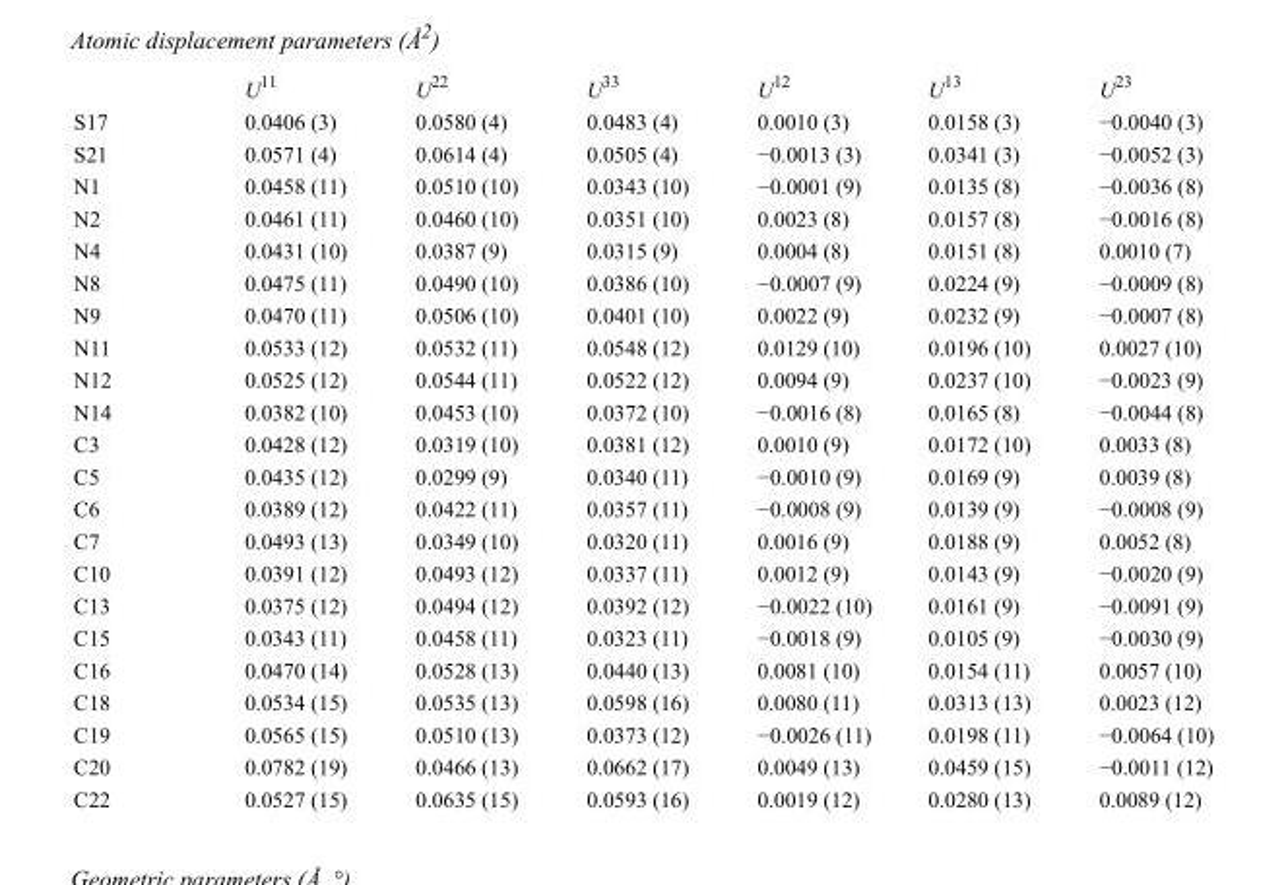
<table><thead><tr><td></td><td>U<sup>11</sup></td><td>U<sup>22</sup></td><td>U<sup>33</sup></td><td>U<sup>12</sup></td><td>U<sup>13</sup></td><td>U<sup>23</sup></td></tr></thead><tbody><tr><td>S17</td><td>0.0406 (3)</td><td>0.0580 (4)</td><td>0.0483 (4)</td><td>0.0010 (3)</td><td>0.0158 (3)</td><td>−0.0040 (3)</td></tr><tr><td>S21</td><td>0.0571 (4)</td><td>0.0614 (4)</td><td>0.0505 (4)</td><td>−0.0013 (3)</td><td>0.0341 (3)</td><td>−0.0052 (3)</td></tr><tr><td>N1</td><td>0.0458 (11)</td><td>0.0510 (10)</td><td>0.0343 (10)</td><td>−0.0001 (9)</td><td>0.0135 (8)</td><td>−0.0036 (8)</td></tr><tr><td>N2</td><td>0.0461 (11)</td><td>0.0460 (10)</td><td>0.0351 (10)</td><td>0.0023 (8)</td><td>0.0157 (8)</td><td>−0.0016 (8)</td></tr><tr><td>N4</td><td>0.0431 (10)</td><td>0.0387 (9)</td><td>0.0315 (9)</td><td>0.0004 (8)</td><td>0.0151 (8)</td><td>0.0010 (7)</td></tr><tr><td>N8</td><td>0.0475 (11)</td><td>0.0490 (10)</td><td>0.0386 (10)</td><td>−0.0007 (9)</td><td>0.0224 (9)</td><td>−0.0009 (8)</td></tr><tr><td>N9</td><td>0.0470 (11)</td><td>0.0506 (10)</td><td>0.0401 (10)</td><td>0.0022 (9)</td><td>0.0232 (9)</td><td>−0.0007 (8)</td></tr><tr><td>N11</td><td>0.0533 (12)</td><td>0.0532 (11)</td><td>0.0548 (12)</td><td>0.0129 (10)</td><td>0.0196 (10)</td><td>0.0027 (10)</td></tr><tr><td>N12</td><td>0.0525 (12)</td><td>0.0544 (11)</td><td>0.0522 (12)</td><td>0.0094 (9)</td><td>0.0237 (10)</td><td>−0.0023 (9)</td></tr><tr><td>N14</td><td>0.0382 (10)</td><td>0.0453 (10)</td><td>0.0372 (10)</td><td>−0.0016 (8)</td><td>0.0165 (8)</td><td>−0.0044 (8)</td></tr><tr><td>C3</td><td>0.0428 (12)</td><td>0.0319 (10)</td><td>0.0381 (12)</td><td>0.0010 (9)</td><td>0.0172 (10)</td><td>0.0033 (8)</td></tr><tr><td>C5</td><td>0.0435 (12)</td><td>0.0299 (9)</td><td>0.0340 (11)</td><td>−0.0010 (9)</td><td>0.0169 (9)</td><td>0.0039 (8)</td></tr><tr><td>C6</td><td>0.0389 (12)</td><td>0.0422 (11)</td><td>0.0357 (11)</td><td>−0.0008 (9)</td><td>0.0139 (9)</td><td>−0.0008 (9)</td></tr><tr><td>C7</td><td>0.0493 (13)</td><td>0.0349 (10)</td><td>0.0320 (11)</td><td>0.0016 (9)</td><td>0.0188 (9)</td><td>0.0052 (8)</td></tr><tr><td>C10</td><td>0.0391 (12)</td><td>0.0493 (12)</td><td>0.0337 (11)</td><td>0.0012 (9)</td><td>0.0143 (9)</td><td>−0.0020 (9)</td></tr><tr><td>C13</td><td>0.0375 (12)</td><td>0.0494 (12)</td><td>0.0392 (12)</td><td>−0.0022 (10)</td><td>0.0161 (9)</td><td>−0.0091 (9)</td></tr><tr><td>C15</td><td>0.0343 (11)</td><td>0.0458 (11)</td><td>0.0323 (11)</td><td>−0.0018 (9)</td><td>0.0105 (9)</td><td>−0.0030 (9)</td></tr><tr><td>C16</td><td>0.0470 (14)</td><td>0.0528 (13)</td><td>0.0440 (13)</td><td>0.0081 (10)</td><td>0.0154 (11)</td><td>0.0057 (10)</td></tr><tr><td>C18</td><td>0.0534 (15)</td><td>0.0535 (13)</td><td>0.0598 (16)</td><td>0.0080 (11)</td><td>0.0313 (13)</td><td>0.0023 (12)</td></tr><tr><td>C19</td><td>0.0565 (15)</td><td>0.0510 (13)</td><td>0.0373 (12)</td><td>−0.0026 (11)</td><td>0.0198 (11)</td><td>−0.0064 (10)</td></tr><tr><td>C20</td><td>0.0782 (19)</td><td>0.0466 (13)</td><td>0.0662 (17)</td><td>0.0049 (13)</td><td>0.0459 (15)</td><td>−0.0011 (12)</td></tr><tr><td>C22</td><td>0.0527 (15)</td><td>0.0635 (15)</td><td>0.0593 (16)</td><td>0.0019 (12)</td><td>0.0280 (13)</td><td>0.0089 (12)</td></tr></tbody></table>